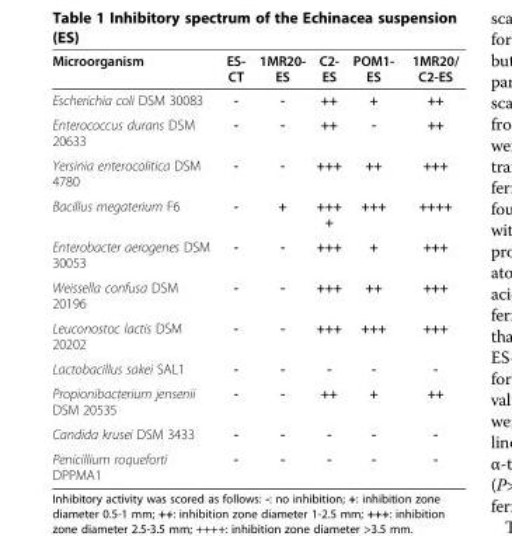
<table><thead><tr><td>Microorganism</td><td>ES- CT</td><td>1MR20- ES</td><td>C2- ES</td><td>POM1- ES</td><td>1MR20/ C2-ES</td></tr></thead><tbody><tr><td>Escherichia coli DSM 30083</td><td>-</td><td>-</td><td>++</td><td>+</td><td>++</td></tr><tr><td>Enterococcus durans DSM 20633</td><td>-</td><td>-</td><td>++</td><td>-</td><td>++</td></tr><tr><td>Yersinia enterocolitica DSM 4780</td><td>-</td><td>-</td><td>+++</td><td>++</td><td>+++</td></tr><tr><td>Bacillus megaterium F6</td><td>-</td><td>+</td><td>+++ +</td><td>+++</td><td>++++</td></tr><tr><td>Enterobacter aerogenes DSM 30053</td><td>-</td><td>-</td><td>+++</td><td>+</td><td>+++</td></tr><tr><td>Weissella confusa DSM 20196</td><td>-</td><td>-</td><td>+++</td><td>++</td><td>+++</td></tr><tr><td>Leuconostoc lactis DSM 20202</td><td>-</td><td>-</td><td>+++</td><td>+++</td><td>+++</td></tr><tr><td>Lactobacillus sakei SAL1</td><td>-</td><td>-</td><td>-</td><td>-</td><td>-</td></tr><tr><td>Propionibacterium jensenii DSM 20535</td><td>-</td><td>-</td><td>++</td><td>+</td><td>++</td></tr><tr><td>Candida krusei DSM 3433</td><td>-</td><td>-</td><td>-</td><td>-</td><td>-</td></tr><tr><td>Penicillium roqueforti DPPMA1</td><td>-</td><td>-</td><td>-</td><td>-</td><td>-</td></tr></tbody></table>